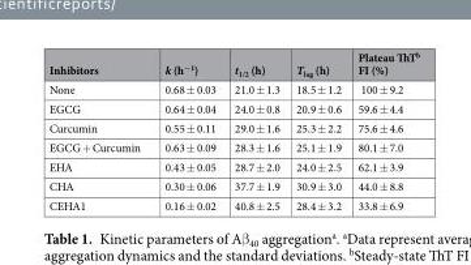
<table><thead><tr><td>Inhibitors</td><td>k (h<sup>−1</sup>)</td><td>t<sub>1/2</sub> (h)</td><td>T<sub>lag</sub> (h)</td><td>Plateau ThT<sup>b</sup> FI (%)</td></tr></thead><tbody><tr><td>None</td><td>0.68 ± 0.03</td><td>21.0 ± 1.3</td><td>18.5 ± 1.2</td><td>100 ± 9.2</td></tr><tr><td>EGCG</td><td>0.64 ± 0.04</td><td>24.0 ± 0.8</td><td>20.9 ± 0.6</td><td>59.6 ± 4.4</td></tr><tr><td>Curcumin</td><td>0.55 ± 0.11</td><td>29.0 ± 1.6</td><td>25.3 ± 2.2</td><td>75.6 ± 4.6</td></tr><tr><td>EGCG + Curcumin</td><td>0.63 ± 0.09</td><td>28.3 ± 1.6</td><td>25.1 ± 1.9</td><td>80.1 ± 7.0</td></tr><tr><td>EHA</td><td>0.43 ± 0.05</td><td>28.7 ± 2.0</td><td>24.0 ± 2.5</td><td>62.1 ± 3.9</td></tr><tr><td>CHA</td><td>0.30 ± 0.06</td><td>37.7 ± 1.9</td><td>30.9 ± 3.0</td><td>44.0 ± 8.8</td></tr><tr><td>CEHA1</td><td>0.16 ± 0.02</td><td>40.8 ± 2.5</td><td>28.4 ± 3.2</td><td>33.8 ± 6.9</td></tr></tbody></table>